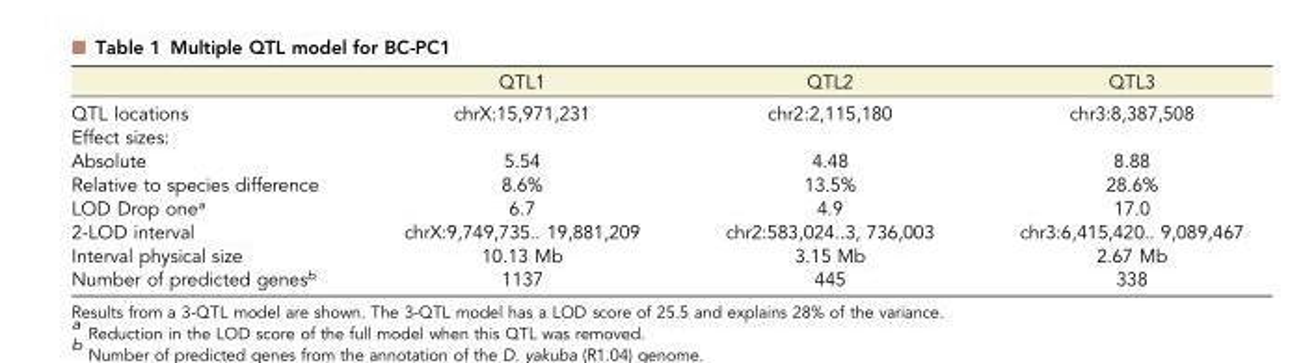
<table><thead><tr><td></td><td>QTL1</td><td>QTL2</td><td>QTL3</td></tr></thead><tbody><tr><td>QTL locations</td><td>chrX:15,971,231</td><td>chr2:2,115,180</td><td>chr3:8,387,508</td></tr><tr><td colspan="4">Effect sizes:</td></tr><tr><td>Absolute</td><td>5.54</td><td>4.48</td><td>8.88</td></tr><tr><td>Relative to species difference</td><td>8.6%</td><td>13.5%</td><td>28.6%</td></tr><tr><td>LOD Drop one<sup>a</sup></td><td>6.7</td><td>4.9</td><td>17.0</td></tr><tr><td>2-LOD interval</td><td>chrX:9,749,735.. 19,881,209</td><td>chr2:583,024..3, 736,003</td><td>chr3:6,415,420.. 9,089,467</td></tr><tr><td>Interval physical size</td><td>10.13 Mb</td><td>3.15 Mb</td><td>2.67 Mb</td></tr><tr><td>Number of predicted genes<sup>b</sup></td><td>1137</td><td>445</td><td>338</td></tr></tbody></table>